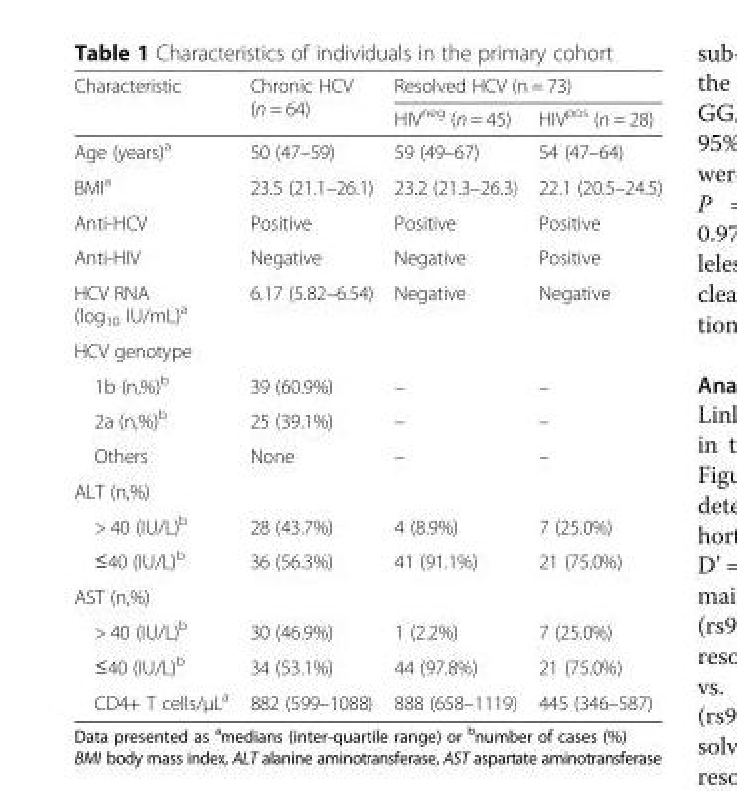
<table><thead><tr><td rowspan="2">Characteristic</td><td rowspan="2">Chronic HCV (n = 64)</td><td colspan="2">Resolved HCV (n = 73)</td></tr><tr><td>HIV<sup>neg</sup> (n = 45)</td><td>HIV<sup>pos</sup> (n = 28)</td></tr></thead><tbody><tr><td>Age (years)<sup>a</sup></td><td>50 (47–59)</td><td>59 (49–67)</td><td>54 (47–64)</td></tr><tr><td>BMI<sup>a</sup></td><td>23.5 (21.1–26.1)</td><td>23.2 (21.3–26.3)</td><td>22.1 (20.5–24.5)</td></tr><tr><td>Anti-HCV</td><td>Positive</td><td>Positive</td><td>Positive</td></tr><tr><td>Anti-HIV</td><td>Negative</td><td>Negative</td><td>Positive</td></tr><tr><td>HCV RNA (log<sub>10</sub> IU/mL)<sup>a</sup></td><td>6.17 (5.82–6.54)</td><td>Negative</td><td>Negative</td></tr><tr><td colspan="4">HCV genotype</td></tr><tr><td>1b (n,%)<sup>b</sup></td><td>39 (60.9%)</td><td>–</td><td>–</td></tr><tr><td>2a (n,%)<sup>b</sup></td><td>25 (39.1%)</td><td>–</td><td>–</td></tr><tr><td>Others</td><td>None</td><td>–</td><td>–</td></tr><tr><td colspan="4">ALT (n,%)</td></tr><tr><td>&gt; 40 (IU/L)<sup>b</sup></td><td>28 (43.7%)</td><td>4 (8.9%)</td><td>7 (25.0%)</td></tr><tr><td>≤40 (IU/L)<sup>b</sup></td><td>36 (56.3%)</td><td>41 (91.1%)</td><td>21 (75.0%)</td></tr><tr><td colspan="4">AST (n,%)</td></tr><tr><td>&gt; 40 (IU/L)<sup>b</sup></td><td>30 (46.9%)</td><td>1 (2.2%)</td><td>7 (25.0%)</td></tr><tr><td>≤40 (IU/L)<sup>b</sup></td><td>34 (53.1%)</td><td>44 (97.8%)</td><td>21 (75.0%)</td></tr><tr><td>CD4+ T cells/μL<sup>a</sup></td><td>882 (599–1088)</td><td>888 (658–1119)</td><td>445 (346–587)</td></tr></tbody></table>